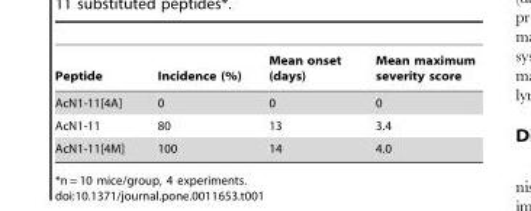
<table><thead><tr><td>Peptide</td><td>Incidence (%)</td><td>Mean onset (days)</td><td>Mean maximum severity score</td></tr></thead><tbody><tr><td>AcN1-11[4A]</td><td>0</td><td>0</td><td>0</td></tr><tr><td>AcN1-11</td><td>80</td><td>13</td><td>3.4</td></tr><tr><td>AcN1-11[4M]</td><td>100</td><td>14</td><td>4.0</td></tr></tbody></table>